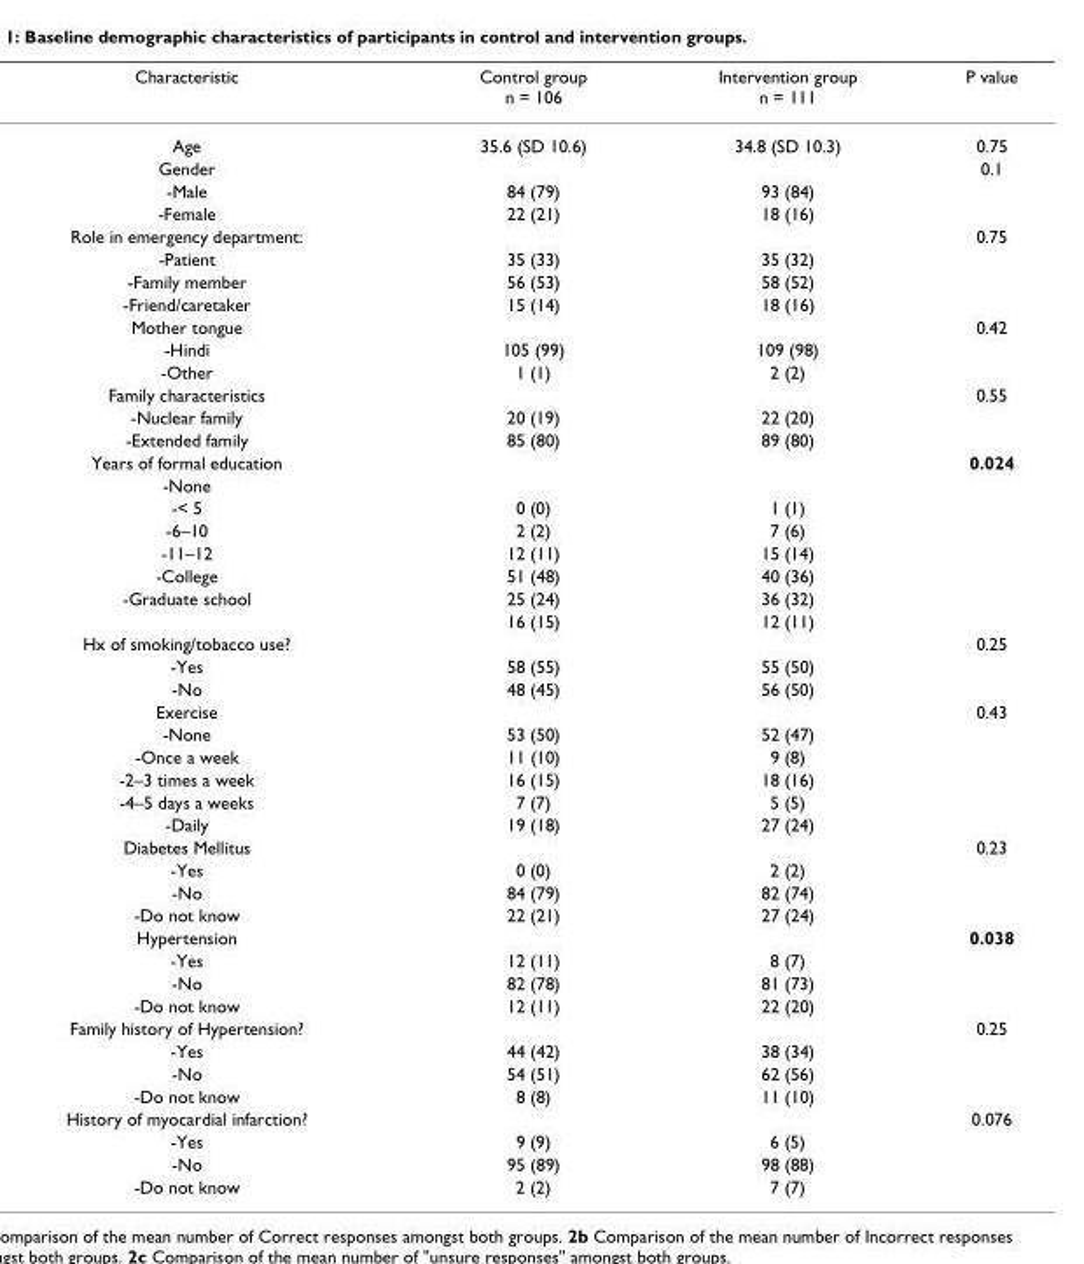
<table><thead><tr><td>Characteristic</td><td>Control group n = 106</td><td>Intervention group n = 111</td><td>P value</td></tr></thead><tbody><tr><td>Age</td><td>35.6 (SD 10.6)</td><td>34.8 (SD 10.3)</td><td>0.75</td></tr><tr><td>Gender</td><td></td><td></td><td>0.1</td></tr><tr><td>-Male</td><td>84 (79)</td><td>93 (84)</td><td></td></tr><tr><td>-Female</td><td>22 (21)</td><td>18 (16)</td><td></td></tr><tr><td>Role in emergency department:</td><td></td><td></td><td>0.75</td></tr><tr><td>-Patient</td><td>35 (33)</td><td>35 (32)</td><td></td></tr><tr><td>-Family member</td><td>56 (53)</td><td>58 (52)</td><td></td></tr><tr><td>-Friend/caretaker</td><td>15 (14)</td><td>18 (16)</td><td></td></tr><tr><td>Mother tongue</td><td></td><td></td><td>0.42</td></tr><tr><td>-Hindi</td><td>105 (99)</td><td>109 (98)</td><td></td></tr><tr><td>-Other</td><td>1 (1)</td><td>2 (2)</td><td></td></tr><tr><td>Family characteristics</td><td></td><td></td><td>0.55</td></tr><tr><td>-Nuclear family</td><td>20 (19)</td><td>22 (20)</td><td></td></tr><tr><td>-Extended family</td><td>85 (80)</td><td>89 (80)</td><td></td></tr><tr><td>Years of formal education</td><td></td><td></td><td>0.024</td></tr><tr><td colspan="4">-None</td></tr><tr><td>-&lt; 5</td><td>0 (0)</td><td>1 (1)</td><td></td></tr><tr><td>-6–10</td><td>2 (2)</td><td>7 (6)</td><td></td></tr><tr><td>-11–12</td><td>12 (11)</td><td>15 (14)</td><td></td></tr><tr><td>-College</td><td>51 (48)</td><td>40 (36)</td><td></td></tr><tr><td rowspan="2">-Graduate school</td><td>25 (24)</td><td>36 (32)</td><td></td></tr><tr><td>16 (15)</td><td>12 (11)</td><td></td></tr><tr><td>Hx of smoking/tobacco use?</td><td></td><td></td><td>0.25</td></tr><tr><td>-Yes</td><td>58 (55)</td><td>55 (50)</td><td></td></tr><tr><td>-No</td><td>48 (45)</td><td>56 (50)</td><td></td></tr><tr><td>Exercise</td><td></td><td></td><td>0.43</td></tr><tr><td>-None</td><td>53 (50)</td><td>52 (47)</td><td></td></tr><tr><td>-Once a week</td><td>11 (10)</td><td>9 (8)</td><td></td></tr><tr><td>-2–3 times a week</td><td>16 (15)</td><td>18 (16)</td><td></td></tr><tr><td>-4–5 days a weeks</td><td>7 (7)</td><td>5 (5)</td><td></td></tr><tr><td>-Daily</td><td>19 (18)</td><td>27 (24)</td><td></td></tr><tr><td>Diabetes Mellitus</td><td></td><td></td><td>0.23</td></tr><tr><td>-Yes</td><td>0 (0)</td><td>2 (2)</td><td></td></tr><tr><td>-No</td><td>84 (79)</td><td>82 (74)</td><td></td></tr><tr><td>-Do not know</td><td>22 (21)</td><td>27 (24)</td><td></td></tr><tr><td>Hypertension</td><td></td><td></td><td>0.038</td></tr><tr><td>-Yes</td><td>12 (11)</td><td>8 (7)</td><td></td></tr><tr><td>-No</td><td>82 (78)</td><td>81 (73)</td><td></td></tr><tr><td>-Do not know</td><td>12 (11)</td><td>22 (20)</td><td></td></tr><tr><td>Family history of Hypertension?</td><td></td><td></td><td>0.25</td></tr><tr><td>-Yes</td><td>44 (42)</td><td>38 (34)</td><td></td></tr><tr><td>-No</td><td>54 (51)</td><td>62 (56)</td><td></td></tr><tr><td>-Do not know</td><td>8 (8)</td><td>11 (10)</td><td></td></tr><tr><td>History of myocardial infarction?</td><td></td><td></td><td>0.076</td></tr><tr><td>-Yes</td><td>9 (9)</td><td>6 (5)</td><td></td></tr><tr><td>-No</td><td>95 (89)</td><td>98 (88)</td><td></td></tr><tr><td>-Do not know</td><td>2 (2)</td><td>7 (7)</td><td></td></tr></tbody></table>